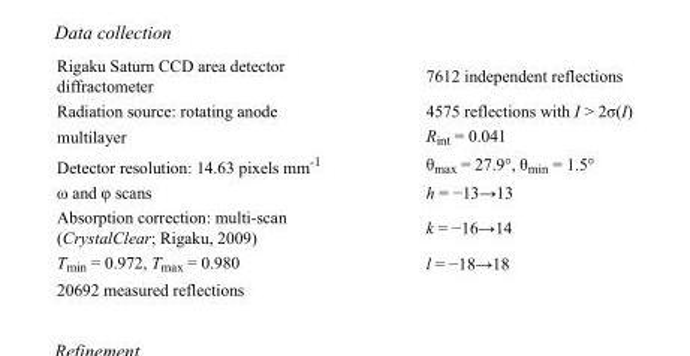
<table><tbody><tr><td>Rigaku Saturn CCD area detector diffractometer</td><td>7612 independent reflections</td></tr><tr><td>Radiation source: rotating anode</td><td>4575 reflections with I &gt; 2σ(I)</td></tr><tr><td>multilayer</td><td>R<sub>int</sub> = 0.041</td></tr><tr><td>Detector resolution: 14.63 pixels mm<sup>-1</sup></td><td>θ<sub>max</sub> = 27.9°, θ<sub>min</sub> = 1.5°</td></tr><tr><td>ω and φ scans</td><td>h = −13→13</td></tr><tr><td>Absorption correction: multi-scan (CrystalClear; Rigaku, 2009)</td><td>k = −16→14</td></tr><tr><td>T<sub>min</sub> = 0.972, T<sub>max</sub> = 0.980</td><td>l = −18→18</td></tr><tr><td>20692 measured reflections</td><td></td></tr></tbody></table>